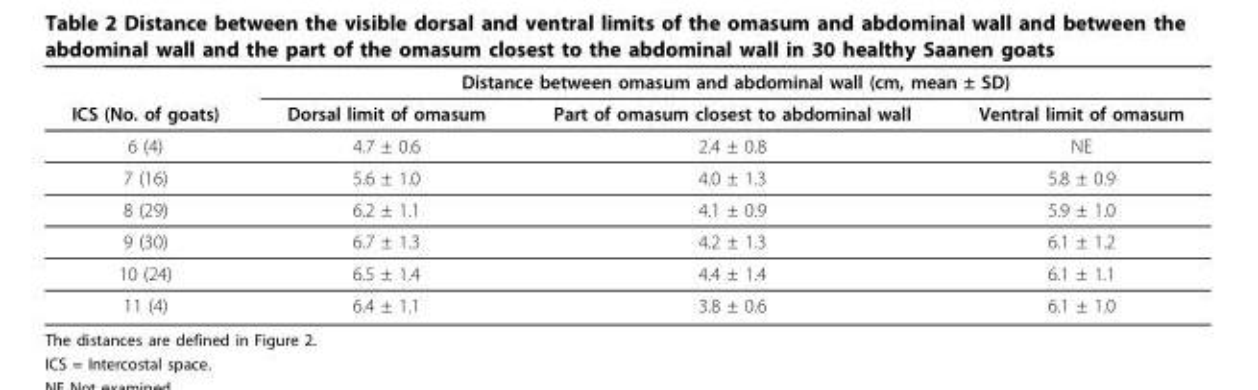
<table><thead><tr><td rowspan="2">ICS (No. of goats)</td><td colspan="3">Distance between omasum and abdominal wall (cm, mean ± SD)</td></tr><tr><td>Dorsal limit of omasum</td><td>Part of omasum closest to abdominal wall</td><td>Ventral limit of omasum</td></tr></thead><tbody><tr><td>6 (4)</td><td>4.7 ± 0.6</td><td>2.4 ± 0.8</td><td>NE</td></tr><tr><td>7 (16)</td><td>5.6 ± 1.0</td><td>4.0 ± 1.3</td><td>5.8 ± 0.9</td></tr><tr><td>8 (29)</td><td>6.2 ± 1.1</td><td>4.1 ± 0.9</td><td>5.9 ± 1.0</td></tr><tr><td>9 (30)</td><td>6.7 ± 1.3</td><td>4.2 ± 1.3</td><td>6.1 ± 1.2</td></tr><tr><td>10 (24)</td><td>6.5 ± 1.4</td><td>4.4 ± 1.4</td><td>6.1 ± 1.1</td></tr><tr><td>11 (4)</td><td>6.4 ± 1.1</td><td>3.8 ± 0.6</td><td>6.1 ± 1.0</td></tr></tbody></table>